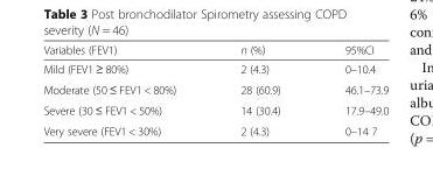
<table><thead><tr><td>Variables (FEV1)</td><td>n (%)</td><td>95%CI</td></tr></thead><tbody><tr><td>Mild (FEV1 ≥ 80%)</td><td>2 (4.3)</td><td>0–10.4</td></tr><tr><td>Moderate (50 ≤ FEV1 &lt; 80%)</td><td>28 (60.9)</td><td>46.1–73.9</td></tr><tr><td>Severe (30 ≤ FEV1 &lt; 50%)</td><td>14 (30.4)</td><td>17.9–49.0</td></tr><tr><td>Very severe (FEV1 &lt; 30%)</td><td>2 (4.3)</td><td>0–14 7</td></tr></tbody></table>